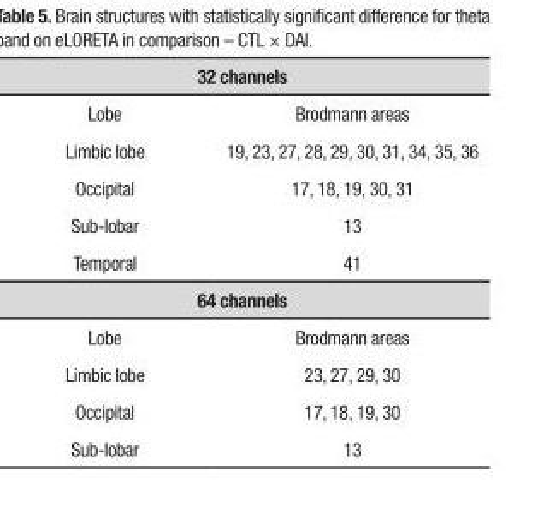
<table><tbody><tr><td colspan="2">32 channels</td></tr><tr><td>Lobe</td><td>Brodmann areas</td></tr><tr><td>Limbic lobe</td><td>19, 23, 27, 28, 29, 30, 31, 34, 35, 36</td></tr><tr><td>Occipital</td><td>17, 18, 19, 30, 31</td></tr><tr><td>Sub-lobar</td><td>13</td></tr><tr><td>Temporal</td><td>41</td></tr><tr><td colspan="2">64 channels</td></tr><tr><td>Lobe</td><td>Brodmann areas</td></tr><tr><td>Limbic lobe</td><td>23, 27, 29, 30</td></tr><tr><td>Occipital</td><td>17, 18, 19, 30</td></tr><tr><td>Sub-lobar</td><td>13</td></tr></tbody></table>